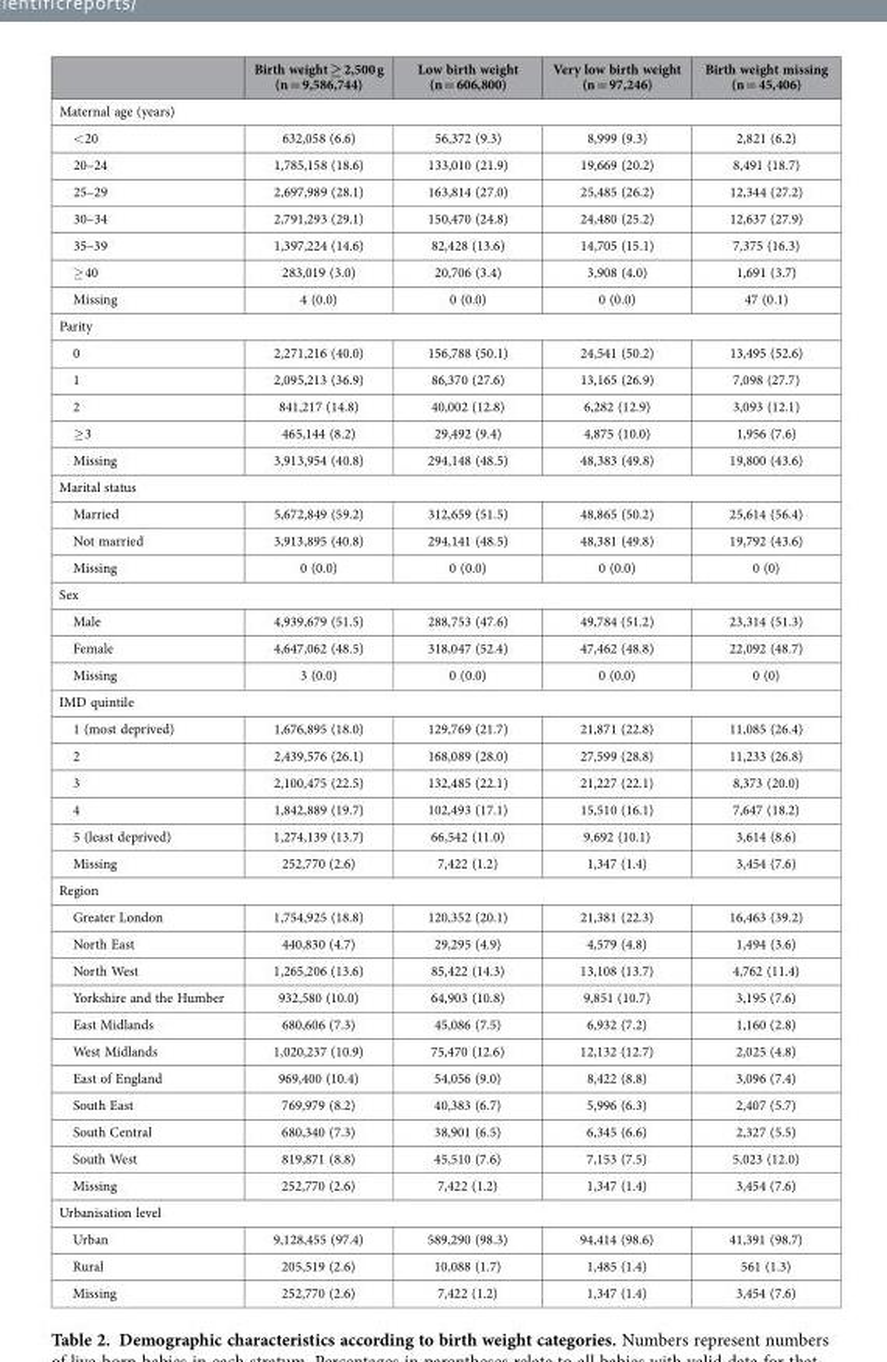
<table><thead><tr><td></td><td>Birth weight ≥ 2,500 g (n = 9,586,744)</td><td>Low birth weight (n = 606,800)</td><td>Very low birth weight (n = 97,246)</td><td>Birth weight missing (n = 45,406)</td></tr></thead><tbody><tr><td colspan="5">Maternal age (years)</td></tr><tr><td>&lt; 20</td><td>632,058 (6.6)</td><td>56,372 (9.3)</td><td>8,999 (9.3)</td><td>2,821 (6.2)</td></tr><tr><td>20–24</td><td>1,785,158 (18.6)</td><td>133,010 (21.9)</td><td>19,669 (20.2)</td><td>8,491 (18.7)</td></tr><tr><td>25–29</td><td>2,697,989 (28.1)</td><td>163,814 (27.0)</td><td>25,485 (26.2)</td><td>12,344 (27.2)</td></tr><tr><td>30–34</td><td>2,791,293 (29.1)</td><td>150,470 (24.8)</td><td>24,480 (25.2)</td><td>12,637 (27.9)</td></tr><tr><td>35–39</td><td>1,397,224 (14.6)</td><td>82,428 (13.6)</td><td>14,705 (15.1)</td><td>7,375 (16.3)</td></tr><tr><td>≥ 40</td><td>283,019 (3.0)</td><td>20,706 (3.4)</td><td>3,908 (4.0)</td><td>1,691 (3.7)</td></tr><tr><td>Missing</td><td>4 (0.0)</td><td>0 (0.0)</td><td>0 (0.0)</td><td>47 (0.1)</td></tr><tr><td colspan="5">Parity</td></tr><tr><td>0</td><td>2,271,216 (40.0)</td><td>156,788 (50.1)</td><td>24,541 (50.2)</td><td>13,495 (52.6)</td></tr><tr><td>1</td><td>2,095,213 (36.9)</td><td>86,370 (27.6)</td><td>13,165 (26.9)</td><td>7,098 (27.7)</td></tr><tr><td>2</td><td>841,217 (14.8)</td><td>40,002 (12.8)</td><td>6,282 (12.9)</td><td>3,093 (12.1)</td></tr><tr><td>≥ 3</td><td>465,144 (8.2)</td><td>29,492 (9.4)</td><td>4,875 (10.0)</td><td>1,956 (7.6)</td></tr><tr><td>Missing</td><td>3,913,954 (40.8)</td><td>294,148 (48.5)</td><td>48,383 (49.8)</td><td>19,800 (43.6)</td></tr><tr><td colspan="5">Marital status</td></tr><tr><td>Married</td><td>5,672,849 (59.2)</td><td>312,659 (51.5)</td><td>48,865 (50.2)</td><td>25,614 (56.4)</td></tr><tr><td>Not married</td><td>3,913,895 (40.8)</td><td>294,141 (48.5)</td><td>48,381 (49.8)</td><td>19,792 (43.6)</td></tr><tr><td>Missing</td><td>0 (0.0)</td><td>0 (0.0)</td><td>0 (0.0)</td><td>0 (0)</td></tr><tr><td colspan="5">Sex</td></tr><tr><td>Male</td><td>4,939,679 (51.5)</td><td>288,753 (47.6)</td><td>49,784 (51.2)</td><td>23,314 (51.3)</td></tr><tr><td>Female</td><td>4,647,062 (48.5)</td><td>318,047 (52.4)</td><td>47,462 (48.8)</td><td>22,092 (48.7)</td></tr><tr><td>Missing</td><td>3 (0.0)</td><td>0 (0.0)</td><td>0 (0.0)</td><td>0 (0)</td></tr><tr><td colspan="5">IMD quintile</td></tr><tr><td>1 (most deprived)</td><td>1,676,895 (18.0)</td><td>129,769 (21.7)</td><td>21,871 (22.8)</td><td>11,085 (26.4)</td></tr><tr><td>2</td><td>2,439,576 (26.1)</td><td>168,089 (28.0)</td><td>27,599 (28.8)</td><td>11,233 (26.8)</td></tr><tr><td>3</td><td>2,100,475 (22.5)</td><td>132,485 (22.1)</td><td>21,227 (22.1)</td><td>8,373 (20.0)</td></tr><tr><td>4</td><td>1,842,889 (19.7)</td><td>102,493 (17.1)</td><td>15,510 (16.1)</td><td>7,647 (18.2)</td></tr><tr><td>5 (least deprived)</td><td>1,274,139 (13.7)</td><td>66,542 (11.0)</td><td>9,692 (10.1)</td><td>3,614 (8.6)</td></tr><tr><td>Missing</td><td>252,770 (2.6)</td><td>7,422 (1.2)</td><td>1,347 (1.4)</td><td>3,454 (7.6)</td></tr><tr><td colspan="5">Region</td></tr><tr><td>Greater London</td><td>1,754,925 (18.8)</td><td>120,352 (20.1)</td><td>21,381 (22.3)</td><td>16,463 (39.2)</td></tr><tr><td>North East</td><td>440,830 (4.7)</td><td>29,295 (4.9)</td><td>4,579 (4.8)</td><td>1,494 (3.6)</td></tr><tr><td>North West</td><td>1,265,206 (13.6)</td><td>85,422 (14.3)</td><td>13,108 (13.7)</td><td>4,762 (11.4)</td></tr><tr><td>Yorkshire and the Humber</td><td>932,580 (10.0)</td><td>64,903 (10.8)</td><td>9,851 (10.7)</td><td>3,195 (7.6)</td></tr><tr><td>East Midlands</td><td>680,606 (7.3)</td><td>45,086 (7.5)</td><td>6,932 (7.2)</td><td>1,160 (2.8)</td></tr><tr><td>West Midlands</td><td>1,020,237 (10.9)</td><td>75,470 (12.6)</td><td>12,132 (12.7)</td><td>2,025 (4.8)</td></tr><tr><td>East of England</td><td>969,400 (10.4)</td><td>54,056 (9.0)</td><td>8,422 (8.8)</td><td>3,096 (7.4)</td></tr><tr><td>South East</td><td>769,979 (8.2)</td><td>40,383 (6.7)</td><td>5,996 (6.3)</td><td>2,407 (5.7)</td></tr><tr><td>South Central</td><td>680,340 (7.3)</td><td>38,901 (6.5)</td><td>6,345 (6.6)</td><td>2,327 (5.5)</td></tr><tr><td>South West</td><td>819,871 (8.8)</td><td>45,510 (7.6)</td><td>7,153 (7.5)</td><td>5,023 (12.0)</td></tr><tr><td>Missing</td><td>252,770 (2.6)</td><td>7,422 (1.2)</td><td>1,347 (1.4)</td><td>3,454 (7.6)</td></tr><tr><td colspan="5">Urbanisation level</td></tr><tr><td>Urban</td><td>9,128,455 (97.4)</td><td>589,290 (98.3)</td><td>94,414 (98.6)</td><td>41,391 (98.7)</td></tr><tr><td>Rural</td><td>205,519 (2.6)</td><td>10,088 (1.7)</td><td>1,485 (1.4)</td><td>561 (1.3)</td></tr><tr><td>Missing</td><td>252,770 (2.6)</td><td>7,422 (1.2)</td><td>1,347 (1.4)</td><td>3,454 (7.6)</td></tr></tbody></table>